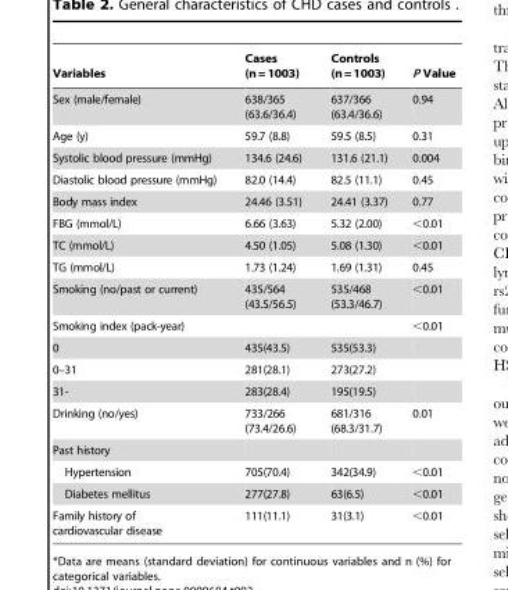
<table><thead><tr><td>Variables</td><td>Cases (n=1003)</td><td>Controls (n=1003)</td><td>P Value</td></tr></thead><tbody><tr><td>Sex (male/female)</td><td>638/365 (63.6/36.4)</td><td>637/366 (63.4/36.6)</td><td>0.94</td></tr><tr><td>Age (y)</td><td>59.7 (8.8)</td><td>59.5 (8.5)</td><td>0.31</td></tr><tr><td>Systolic blood pressure (mmHg)</td><td>134.6 (24.6)</td><td>131.6 (21.1)</td><td>0.004</td></tr><tr><td>Diastolic blood pressure (mmHg)</td><td>82.0 (14.4)</td><td>82.5 (11.1)</td><td>0.45</td></tr><tr><td>Body mass index</td><td>24.46 (3.51)</td><td>24.41 (3.37)</td><td>0.77</td></tr><tr><td>FBG (mmol/L)</td><td>6.66 (3.63)</td><td>5.32 (2.00)</td><td>&lt;0.01</td></tr><tr><td>TC (mmol/L)</td><td>4.50 (1.05)</td><td>5.08 (1.30)</td><td>&lt;0.01</td></tr><tr><td>TG (mmol/L)</td><td>1.73 (1.24)</td><td>1.69 (1.31)</td><td>0.45</td></tr><tr><td>Smoking (no/past or current)</td><td>435/564 (43.5/56.5)</td><td>535/468 (53.3/46.7)</td><td>&lt;0.01</td></tr><tr><td>Smoking index (pack-year)</td><td></td><td></td><td>&lt;0.01</td></tr><tr><td>0</td><td>435(43.5)</td><td>535(53.3)</td><td></td></tr><tr><td>0–31</td><td>281(28.1)</td><td>273(27.2)</td><td></td></tr><tr><td>31-</td><td>283(28.4)</td><td>195(19.5)</td><td></td></tr><tr><td>Drinking (no/yes)</td><td>733/266 (73.4/26.6)</td><td>681/316 (68.3/31.7)</td><td>0.01</td></tr><tr><td colspan="4">Past history</td></tr><tr><td>Hypertension</td><td>705(70.4)</td><td>342(34.9)</td><td>&lt;0.01</td></tr><tr><td>Diabetes mellitus</td><td>277(27.8)</td><td>63(6.5)</td><td>&lt;0.01</td></tr><tr><td>Family history of cardiovascular disease</td><td>111(11.1)</td><td>31(3.1)</td><td>&lt;0.01</td></tr></tbody></table>